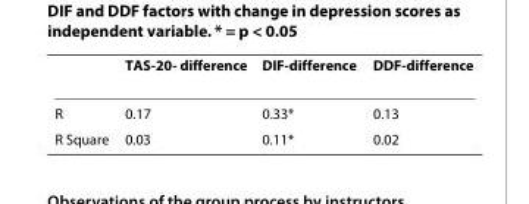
<table><thead><tr><td></td><td>TAS-20- difference</td><td>DIF-difference</td><td>DDF-difference</td></tr></thead><tbody><tr><td>R</td><td>0.17</td><td>0.33*</td><td>0.13</td></tr><tr><td>R Square</td><td>0.03</td><td>0.11*</td><td>0.02</td></tr></tbody></table>